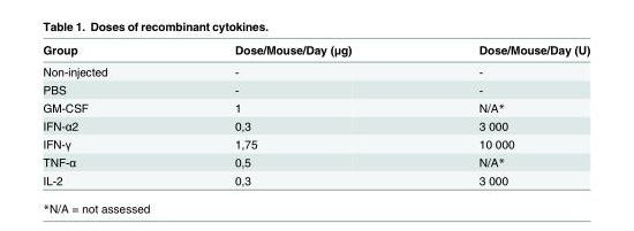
<table><thead><tr><td>Group</td><td>Dose/Mouse/Day (μg)</td><td>Dose/Mouse/Day (U)</td></tr></thead><tbody><tr><td>Non-injected</td><td>-</td><td>-</td></tr><tr><td>PBS</td><td>-</td><td>-</td></tr><tr><td>GM-CSF</td><td>1</td><td>N/A*</td></tr><tr><td>IFN-α2</td><td>0,3</td><td>3 000</td></tr><tr><td>IFN-γ</td><td>1,75</td><td>10 000</td></tr><tr><td>TNF-α</td><td>0,5</td><td>N/A*</td></tr><tr><td>IL-2</td><td>0,3</td><td>3 000</td></tr></tbody></table>